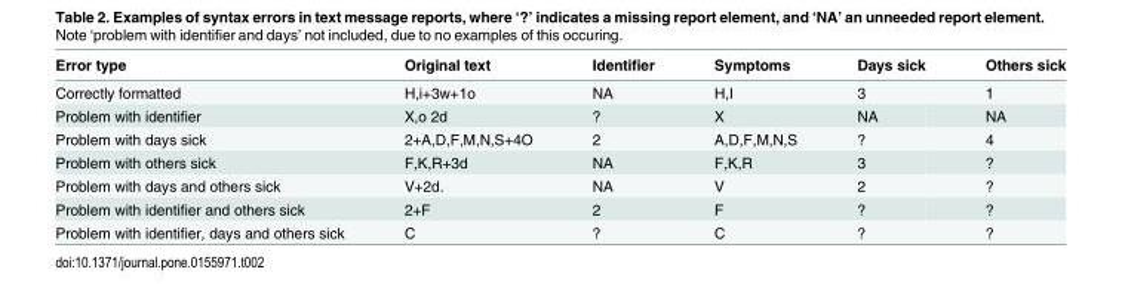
<table><thead><tr><td>Error type</td><td>Original text</td><td>Identifier</td><td>Symptoms</td><td>Days sick</td><td>Others sick</td></tr></thead><tbody><tr><td>Correctly formatted</td><td>H,i+3w+1o</td><td>NA</td><td>H,I</td><td>3</td><td>1</td></tr><tr><td>Problem with identifier</td><td>X,o 2d</td><td>?</td><td>X</td><td>NA</td><td>NA</td></tr><tr><td>Problem with days sick</td><td>2+A,D,F,M,N,S+4O</td><td>2</td><td>A,D,F,M,N,S</td><td>?</td><td>4</td></tr><tr><td>Problem with others sick</td><td>F,K,R+3d</td><td>NA</td><td>F,K,R</td><td>3</td><td>?</td></tr><tr><td>Problem with days and others sick</td><td>V+2d.</td><td>NA</td><td>V</td><td>2</td><td>?</td></tr><tr><td>Problem with identifier and others sick</td><td>2+F</td><td>2</td><td>F</td><td>?</td><td>?</td></tr><tr><td>Problem with identifier, days and others sick</td><td>C</td><td>?</td><td>C</td><td>?</td><td>?</td></tr></tbody></table>